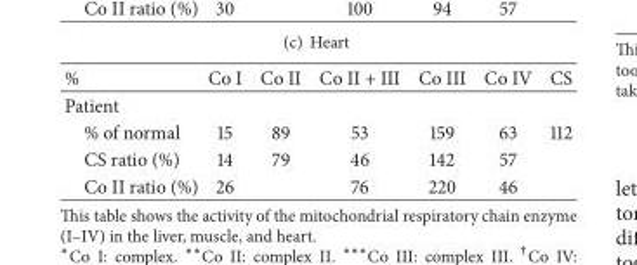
<table><thead><tr><td>%</td><td>Co I</td><td>Co II</td><td>Co II + III</td><td>Co III</td><td>Co IV</td><td>CS</td></tr></thead><tbody><tr><td colspan="7">Patient</td></tr><tr><td>% of normal</td><td>15</td><td>89</td><td>53</td><td>159</td><td>63</td><td>112</td></tr><tr><td>CS ratio (%)</td><td>14</td><td>79</td><td>46</td><td>142</td><td>57</td><td></td></tr><tr><td>Co II ratio (%)</td><td>26</td><td></td><td>76</td><td>220</td><td>46</td><td></td></tr></tbody></table>